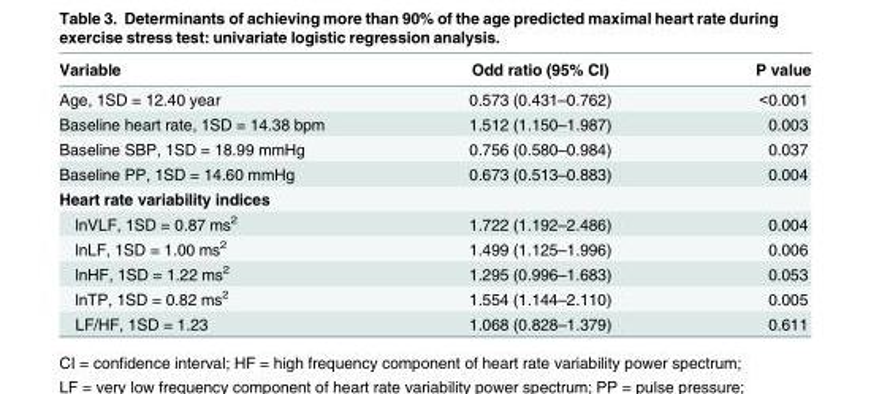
<table><thead><tr><td>Variable</td><td>Odd ratio (95% CI)</td><td>P value</td></tr></thead><tbody><tr><td>Age, 1SD = 12.40 year</td><td>0.573 (0.431–0.762)</td><td>&lt;0.001</td></tr><tr><td>Baseline heart rate, 1SD = 14.38 bpm</td><td>1.512 (1.150–1.987)</td><td>0.003</td></tr><tr><td>Baseline SBP, 1SD = 18.99 mmHg</td><td>0.756 (0.580–0.984)</td><td>0.037</td></tr><tr><td>Baseline PP, 1SD = 14.60 mmHg</td><td>0.673 (0.513–0.883)</td><td>0.004</td></tr><tr><td colspan="3">Heart rate variability indices</td></tr><tr><td>lnVLF, 1SD = 0.87 ms<sup>2</sup></td><td>1.722 (1.192–2.486)</td><td>0.004</td></tr><tr><td>lnLF, 1SD = 1.00 ms<sup>2</sup></td><td>1.499 (1.125–1.996)</td><td>0.006</td></tr><tr><td>lnHF, 1SD = 1.22 ms<sup>2</sup></td><td>1.295 (0.996–1.683)</td><td>0.053</td></tr><tr><td>lnTP, 1SD = 0.82 ms<sup>2</sup></td><td>1.554 (1.144–2.110)</td><td>0.005</td></tr><tr><td>LF/HF, 1SD = 1.23</td><td>1.068 (0.828–1.379)</td><td>0.611</td></tr></tbody></table>